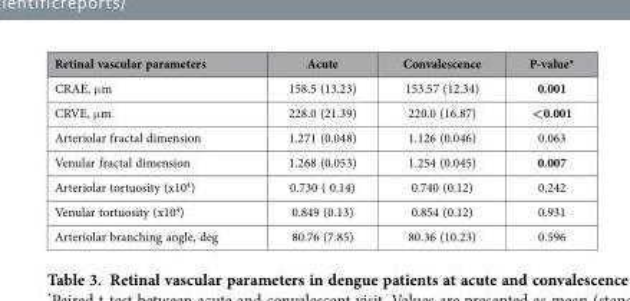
<table><thead><tr><td>Retinal vascular parameters</td><td>Acute</td><td>Convalescence</td><td>P-value*</td></tr></thead><tbody><tr><td>CRAE, μ m</td><td>158.5 (13.23)</td><td>153.57 (12.34)</td><td>0.001</td></tr><tr><td>CRVE, μ m</td><td>228.0 (21.39)</td><td>220.0 (16.87)</td><td>&lt;0.001</td></tr><tr><td>Arteriolar fractal dimension</td><td>1.271 (0.048)</td><td>1.126 (0.046)</td><td>0.063</td></tr><tr><td>Venular fractal dimension</td><td>1.268 (0.053)</td><td>1.254 (0.045)</td><td>0.007</td></tr><tr><td>Arteriolar tortuosity (x10<sup>4</sup>)</td><td>0.730 ( 0.14)</td><td>0.740 (0.12)</td><td>0.242</td></tr><tr><td>Venular tortuosity (x10<sup>4</sup>)</td><td>0.849 (0.13)</td><td>0.854 (0.12)</td><td>0.931</td></tr><tr><td>Arteriolar branching angle, deg</td><td>80.76 (7.85)</td><td>80.36 (10.23)</td><td>0.596</td></tr></tbody></table>